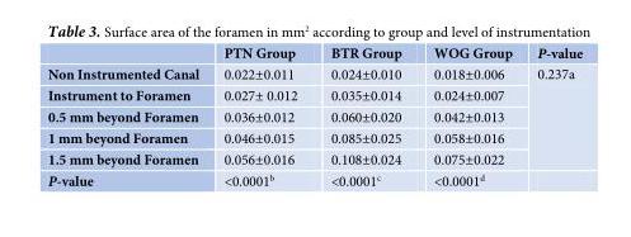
<table><thead><tr><td></td><td>PTN Group</td><td>BTR Group</td><td>WOG Group</td><td>P-value</td></tr></thead><tbody><tr><td>Non Instrumented Canal</td><td>0.022±0.011</td><td>0.024±0.010</td><td>0.018±0.006</td><td rowspan="5">0.237a</td></tr><tr><td>Instrument to Foramen</td><td>0.027± 0.012</td><td>0.035±0.014</td><td>0.024±0.007</td></tr><tr><td>0.5 mm beyond Foramen</td><td>0.036±0.012</td><td>0.060±0.020</td><td>0.042±0.013</td></tr><tr><td>1 mm beyond Foramen</td><td>0.046±0.015</td><td>0.085±0.025</td><td>0.058±0.016</td></tr><tr><td>1.5 mm beyond Foramen</td><td>0.056±0.016</td><td>0.108±0.024</td><td>0.075±0.022</td></tr><tr><td>P-value</td><td>&lt;0.0001<sup>b</sup></td><td>&lt;0.0001<sup>c</sup></td><td>&lt;0.0001<sup>d</sup></td><td></td></tr></tbody></table>